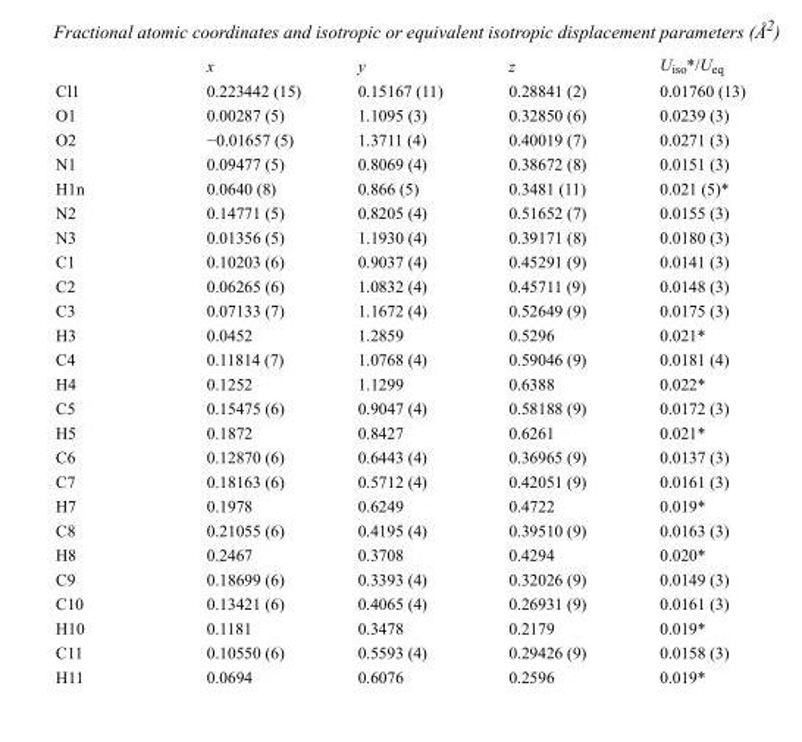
<table><thead><tr><td></td><td>x</td><td>y</td><td>z</td><td>U<sub>iso</sub>*/U<sub>eq</sub></td></tr></thead><tbody><tr><td>Cl1</td><td>0.223442 (15)</td><td>0.15167 (11)</td><td>0.28841 (2)</td><td>0.01760 (13)</td></tr><tr><td>O1</td><td>0.00287 (5)</td><td>1.1095 (3)</td><td>0.32850 (6)</td><td>0.0239 (3)</td></tr><tr><td>O2</td><td>−0.01657 (5)</td><td>1.3711 (4)</td><td>0.40019 (7)</td><td>0.0271 (3)</td></tr><tr><td>N1</td><td>0.09477 (5)</td><td>0.8069 (4)</td><td>0.38672 (8)</td><td>0.0151 (3)</td></tr><tr><td>H1n</td><td>0.0640 (8)</td><td>0.866 (5)</td><td>0.3481 (11)</td><td>0.021 (5)*</td></tr><tr><td>N2</td><td>0.14771 (5)</td><td>0.8205 (4)</td><td>0.51652 (7)</td><td>0.0155 (3)</td></tr><tr><td>N3</td><td>0.01356 (5)</td><td>1.1930 (4)</td><td>0.39171 (8)</td><td>0.0180 (3)</td></tr><tr><td>C1</td><td>0.10203 (6)</td><td>0.9037 (4)</td><td>0.45291 (9)</td><td>0.0141 (3)</td></tr><tr><td>C2</td><td>0.06265 (6)</td><td>1.0832 (4)</td><td>0.45711 (9)</td><td>0.0148 (3)</td></tr><tr><td>C3</td><td>0.07133 (7)</td><td>1.1672 (4)</td><td>0.52649 (9)</td><td>0.0175 (3)</td></tr><tr><td>H3</td><td>0.0452</td><td>1.2859</td><td>0.5296</td><td>0.021*</td></tr><tr><td>C4</td><td>0.11814 (7)</td><td>1.0768 (4)</td><td>0.59046 (9)</td><td>0.0181 (4)</td></tr><tr><td>H4</td><td>0.1252</td><td>1.1299</td><td>0.6388</td><td>0.022*</td></tr><tr><td>C5</td><td>0.15475 (6)</td><td>0.9047 (4)</td><td>0.58188 (9)</td><td>0.0172 (3)</td></tr><tr><td>H5</td><td>0.1872</td><td>0.8427</td><td>0.6261</td><td>0.021*</td></tr><tr><td>C6</td><td>0.12870 (6)</td><td>0.6443 (4)</td><td>0.36965 (9)</td><td>0.0137 (3)</td></tr><tr><td>C7</td><td>0.18163 (6)</td><td>0.5712 (4)</td><td>0.42051 (9)</td><td>0.0161 (3)</td></tr><tr><td>H7</td><td>0.1978</td><td>0.6249</td><td>0.4722</td><td>0.019*</td></tr><tr><td>C8</td><td>0.21055 (6)</td><td>0.4195 (4)</td><td>0.39510 (9)</td><td>0.0163 (3)</td></tr><tr><td>H8</td><td>0.2467</td><td>0.3708</td><td>0.4294</td><td>0.020*</td></tr><tr><td>C9</td><td>0.18699 (6)</td><td>0.3393 (4)</td><td>0.32026 (9)</td><td>0.0149 (3)</td></tr><tr><td>C10</td><td>0.13421 (6)</td><td>0.4065 (4)</td><td>0.26931 (9)</td><td>0.0161 (3)</td></tr><tr><td>H10</td><td>0.1181</td><td>0.3478</td><td>0.2179</td><td>0.019*</td></tr><tr><td>C11</td><td>0.10550 (6)</td><td>0.5593 (4)</td><td>0.29426 (9)</td><td>0.0158 (3)</td></tr><tr><td>H11</td><td>0.0694</td><td>0.6076</td><td>0.2596</td><td>0.019*</td></tr></tbody></table>